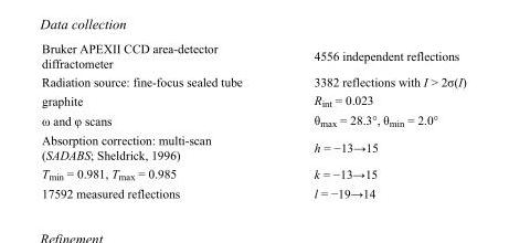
<table><tbody><tr><td>Bruker APEXII CCD area-detector diffractometer</td><td>4556 independent reflections</td></tr><tr><td>Radiation source: fine-focus sealed tube</td><td>3382 reflections with I &gt; 2σ(I)</td></tr><tr><td>graphite</td><td>R<sub>int</sub> = 0.023</td></tr><tr><td>ω and φ scans</td><td>θ<sub>max</sub> = 28.3°, θ<sub>min</sub> = 2.0°</td></tr><tr><td>Absorption correction: multi-scan (SADABS; Sheldrick, 1996)</td><td>h = −13→15</td></tr><tr><td>T<sub>min</sub> = 0.981, T<sub>max</sub> = 0.985</td><td>k = −13→15</td></tr><tr><td>17592 measured reflections</td><td>l = −19→14</td></tr></tbody></table>